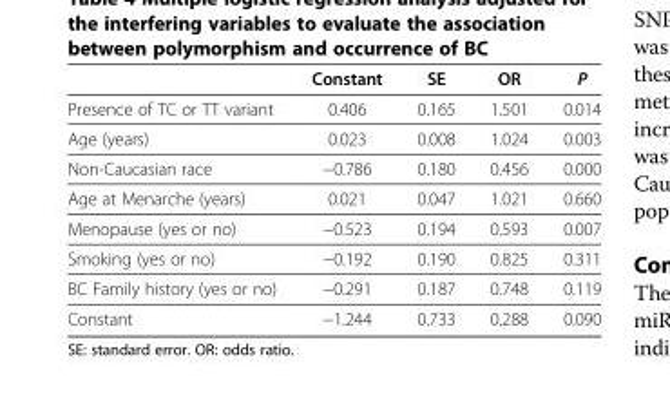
<table><thead><tr><td></td><td>Constant</td><td>SE</td><td>OR</td><td>P</td></tr></thead><tbody><tr><td>Presence of TC or TT variant</td><td>0.406</td><td>0.165</td><td>1.501</td><td>0.014</td></tr><tr><td>Age (years)</td><td>0.023</td><td>0.008</td><td>1.024</td><td>0.003</td></tr><tr><td>Non-Caucasian race</td><td>−0.786</td><td>0.180</td><td>0.456</td><td>0.000</td></tr><tr><td>Age at Menarche (years)</td><td>0.021</td><td>0.047</td><td>1.021</td><td>0.660</td></tr><tr><td>Menopause (yes or no)</td><td>−0.523</td><td>0.194</td><td>0.593</td><td>0.007</td></tr><tr><td>Smoking (yes or no)</td><td>−0.192</td><td>0.190</td><td>0.825</td><td>0.311</td></tr><tr><td>BC Family history (yes or no)</td><td>−0.291</td><td>0.187</td><td>0.748</td><td>0.119</td></tr><tr><td>Constant</td><td>−1.244</td><td>0.733</td><td>0.288</td><td>0.090</td></tr></tbody></table>